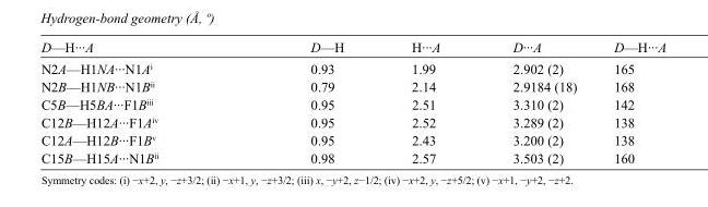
<table><tbody><tr><td>D—H···A</td><td>D—H</td><td>H···A</td><td>D···A</td><td>D—H···A</td></tr><tr><td>N2A—H1NA···N1A<sup>i</sup></td><td>0.93</td><td>1.99</td><td>2.902 (2)</td><td>165</td></tr><tr><td>N2B—H1NB···N1B<sup>ii</sup></td><td>0.79</td><td>2.14</td><td>2.9184 (18)</td><td>168</td></tr><tr><td>C5B—H5BA···F1B<sup>iii</sup></td><td>0.95</td><td>2.51</td><td>3.310 (2)</td><td>142</td></tr><tr><td>C12B—H12A···F1A<sup>iv</sup></td><td>0.95</td><td>2.52</td><td>3.289 (2)</td><td>138</td></tr><tr><td>C12A—H12B···F1B<sup>v</sup></td><td>0.95</td><td>2.43</td><td>3.200 (2)</td><td>138</td></tr><tr><td>C15B—H15A···N1B<sup>ii</sup></td><td>0.98</td><td>2.57</td><td>3.503 (2)</td><td>160</td></tr></tbody></table>